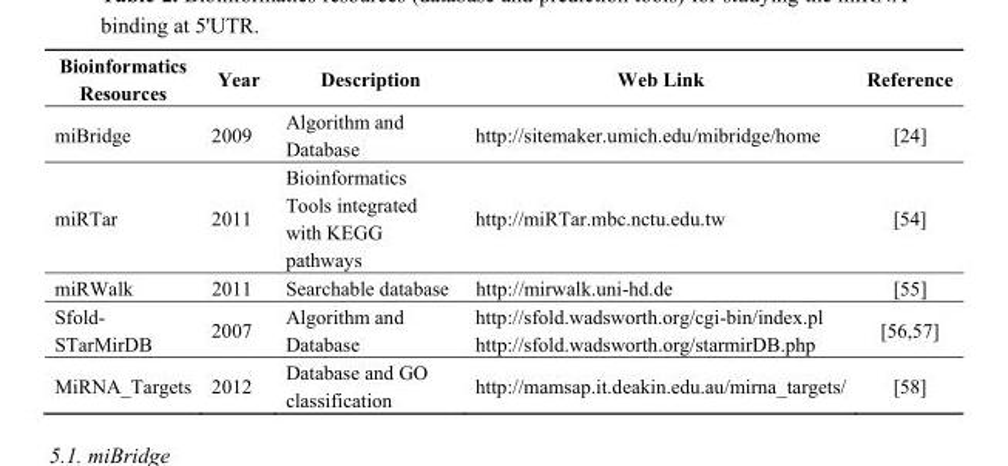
<table><thead><tr><td>Bioinformatics Resources</td><td>Year</td><td>Description</td><td>Web Link</td><td>Reference</td></tr></thead><tbody><tr><td>miBridge</td><td>2009</td><td>Algorithm and Database</td><td>http://sitemaker.umich.edu/mibridge/home</td><td>[24]</td></tr><tr><td>miRTar</td><td>2011</td><td>Bioinformatics Tools integrated with KEGG pathways</td><td>http://miRTar.mbc.nctu.edu.tw</td><td>[54]</td></tr><tr><td>miRWalk</td><td>2011</td><td>Searchable database</td><td>http://mirwalk.uni-hd.de</td><td>[55]</td></tr><tr><td>Sfold- STarMirDB</td><td>2007</td><td>Algorithm and Database</td><td>http://sfold.wadsworth.org/cgi-bin/index.pl http://sfold.wadsworth.org/starmirDB.php</td><td>[56,57]</td></tr><tr><td>MiRNA_Targets</td><td>2012</td><td>Database and GO classification</td><td>http://mamsap.it.deakin.edu.au/mirna_targets/</td><td>[58]</td></tr></tbody></table>